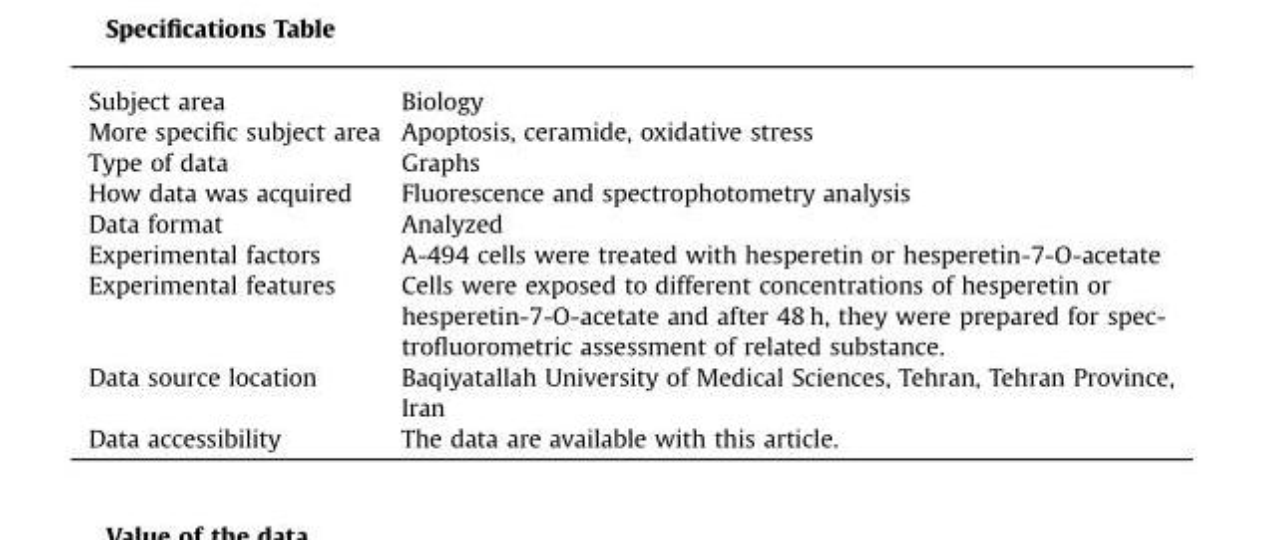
<table><thead><tr><td>Subject area</td><td>Biology</td></tr></thead><tbody><tr><td>More specific subject area</td><td>Apoptosis, ceramide, oxidative stress</td></tr><tr><td>Type of data</td><td>Graphs</td></tr><tr><td>How data was acquired</td><td>Fluorescence and spectrophotometry analysis</td></tr><tr><td>Data format</td><td>Analyzed</td></tr><tr><td>Experimental factors</td><td>A-494 cells were treated with hesperetin or hesperetin-7-O-acetate</td></tr><tr><td>Experimental features</td><td>Cells were exposed to different concentrations of hesperetin or hesperetin-7-O-acetate and after 48 h, they were prepared for spec- trofluorometric assessment of related substance.</td></tr><tr><td>Data source location</td><td>Baqiyatallah University of Medical Sciences, Tehran, Tehran Province, Iran</td></tr><tr><td>Data accessibility</td><td>The data are available with this article.</td></tr></tbody></table>